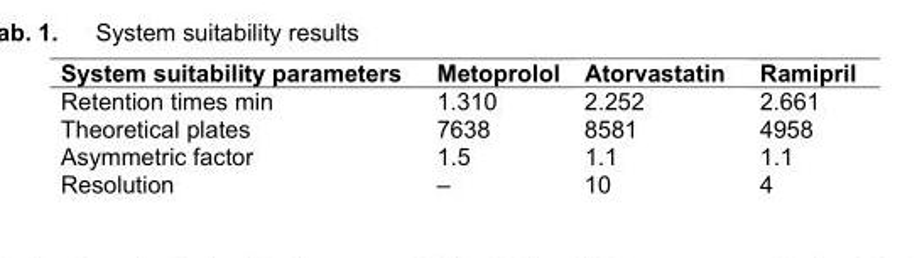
<table><thead><tr><td>System suitability parameters</td><td>Metoprolol</td><td>Atorvastatin</td><td>Ramipril</td></tr></thead><tbody><tr><td>Retention times min</td><td>1.310</td><td>2.252</td><td>2.661</td></tr><tr><td>Theoretical plates</td><td>7638</td><td>8581</td><td>4958</td></tr><tr><td>Asymmetric factor</td><td>1.5</td><td>1.1</td><td>1.1</td></tr><tr><td>Resolution</td><td>–</td><td>10</td><td>4</td></tr></tbody></table>